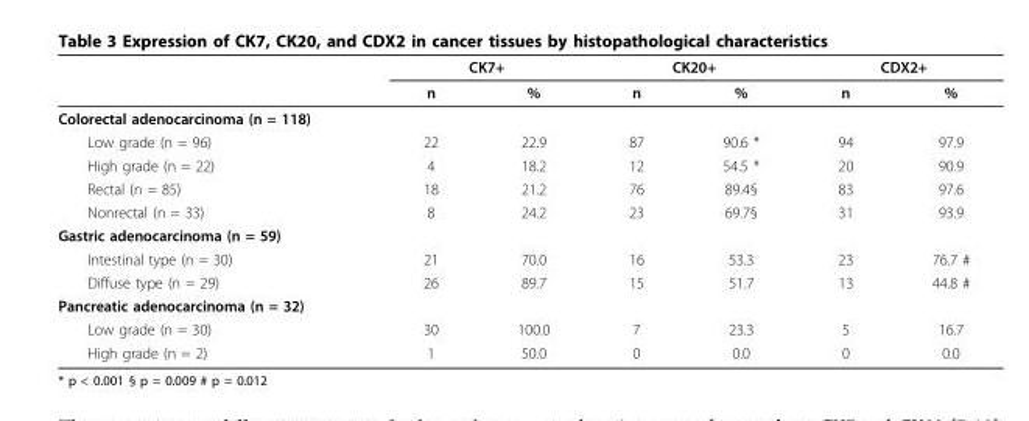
<table><thead><tr><td rowspan="2"></td><td colspan="2">CK7+</td><td colspan="2">CK20+</td><td colspan="2">CDX2+</td></tr><tr><td>n</td><td>%</td><td>n</td><td>%</td><td>n</td><td>%</td></tr></thead><tbody><tr><td colspan="7">Colorectal adenocarcinoma (n = 118)</td></tr><tr><td>Low grade (n = 96)</td><td>22</td><td>22.9</td><td>87</td><td>90.6 *</td><td>94</td><td>97.9</td></tr><tr><td>High grade (n = 22)</td><td>4</td><td>18.2</td><td>12</td><td>54.5 *</td><td>20</td><td>90.9</td></tr><tr><td>Rectal (n = 85)</td><td>18</td><td>21.2</td><td>76</td><td>89.4§</td><td>83</td><td>97.6</td></tr><tr><td>Nonrectal (n = 33)</td><td>8</td><td>24.2</td><td>23</td><td>69.7§</td><td>31</td><td>93.9</td></tr><tr><td colspan="7">Gastric adenocarcinoma (n = 59)</td></tr><tr><td>Intestinal type (n = 30)</td><td>21</td><td>70.0</td><td>16</td><td>53.3</td><td>23</td><td>76.7 #</td></tr><tr><td>Diffuse type (n = 29)</td><td>26</td><td>89.7</td><td>15</td><td>51.7</td><td>13</td><td>44.8 #</td></tr><tr><td colspan="7">Pancreatic adenocarcinoma (n = 32)</td></tr><tr><td>Low grade (n = 30)</td><td>30</td><td>100.0</td><td>7</td><td>23.3</td><td>5</td><td>16.7</td></tr><tr><td>High grade (n = 2)</td><td>1</td><td>50.0</td><td>0</td><td>0.0</td><td>0</td><td>0.0</td></tr></tbody></table>